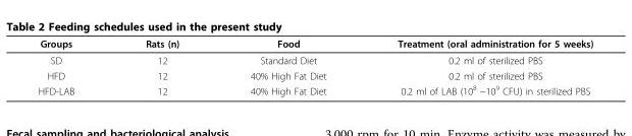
<table><thead><tr><td>Groups</td><td>Rats (n)</td><td>Food</td><td>Treatment (oral administration for 5 weeks)</td></tr></thead><tbody><tr><td>SD</td><td>12</td><td>Standard Diet</td><td>0.2 ml of sterilized PBS</td></tr><tr><td>HFD</td><td>12</td><td>40% High Fat Diet</td><td>0.2 ml of sterilized PBS</td></tr><tr><td>HFD-LAB</td><td>12</td><td>40% High Fat Diet</td><td>0.2 ml of LAB (10<sup>8</sup> ~10<sup>9</sup> CFU) in sterilized PBS</td></tr></tbody></table>